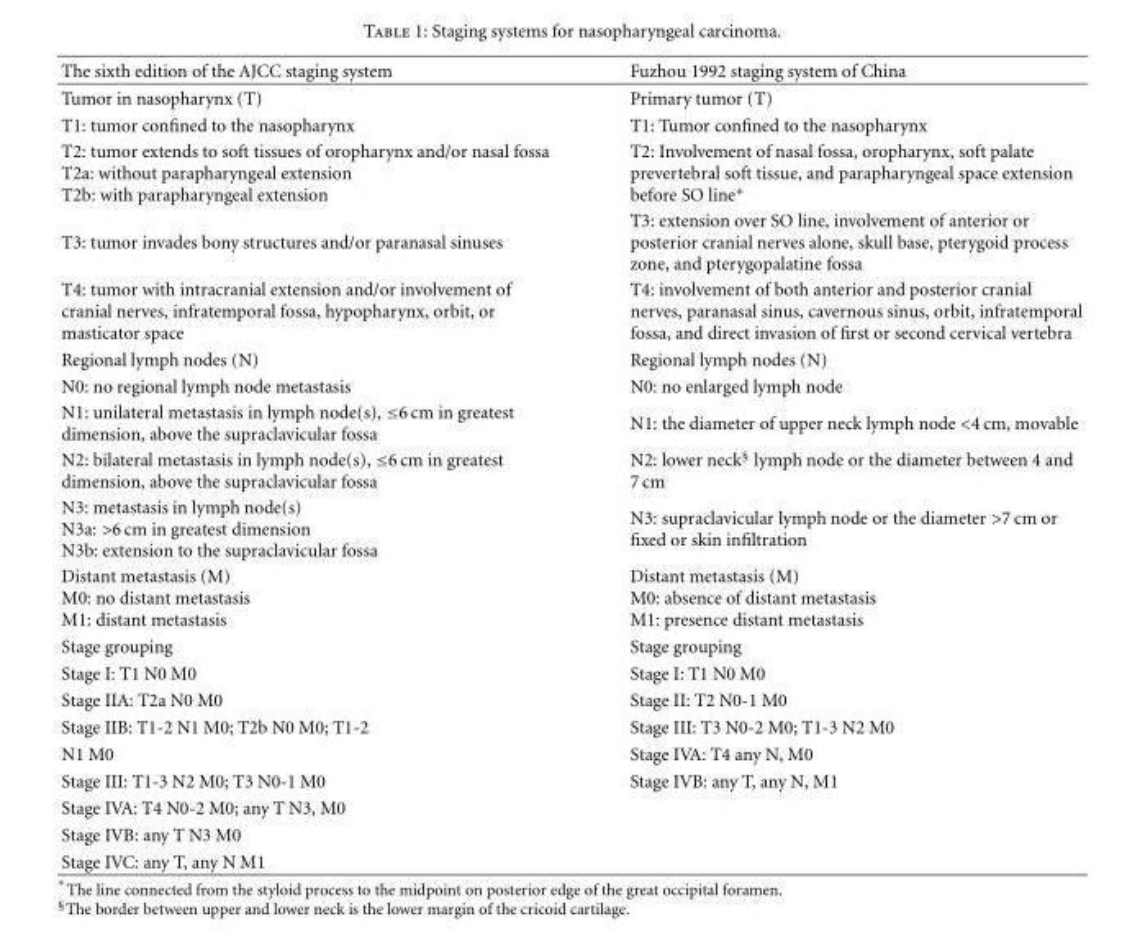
<table><thead><tr><td>The sixth edition of the AJCC staging system</td><td>Fuzhou 1992 staging system of China</td></tr></thead><tbody><tr><td>Tumor in nasopharynx (T)</td><td>Primary tumor (T)</td></tr><tr><td>T1: tumor confined to the nasopharynx</td><td>T1: Tumor confined to the nasopharynx</td></tr><tr><td>T2: tumor extends to soft tissues of oropharynx and/or nasal fossa T2a: without parapharyngeal extension T2b: with parapharyngeal extension</td><td>T2: Involvement of nasal fossa, oropharynx, soft palate prevertebral soft tissue, and parapharyngeal space extension before SO line∗</td></tr><tr><td>T3: tumor invades bony structures and/or paranasal sinuses</td><td>T3: extension over SO line, involvement of anterior or posterior cranial nerves alone, skull base, pterygoid process zone, and pterygopalatine fossa</td></tr><tr><td>T4: tumor with intracranial extension and/or involvement of cranial nerves, infratemporal fossa, hypopharynx, orbit, or masticator space</td><td>T4: involvement of both anterior and posterior cranial nerves, paranasal sinus, cavernous sinus, orbit, infratemporal fossa, and direct invasion of first or second cervical vertebra</td></tr><tr><td>Regional lymph nodes (N)</td><td>Regional lymph nodes (N)</td></tr><tr><td>N0: no regional lymph node metastasis</td><td>N0: no enlarged lymph node</td></tr><tr><td>N1: unilateral metastasis in lymph node(s), ≤6 cm in greatest dimension, above the supraclavicular fossa</td><td>N1: the diameter of upper neck lymph node &lt;4 cm, movable</td></tr><tr><td>N2: bilateral metastasis in lymph node(s), ≤6 cm in greatest dimension, above the supraclavicular fossa</td><td>N2: lower neck<sup>§</sup> lymph node or the diameter between 4 and 7 cm</td></tr><tr><td>N3: metastasis in lymph node(s) N3a: &gt;6 cm in greatest dimension N3b: extension to the supraclavicular fossa</td><td>N3: supraclavicular lymph node or the diameter &gt;7 cm or fixed or skin infiltration</td></tr><tr><td>Distant metastasis (M) M0: no distant metastasis M1: distant metastasis</td><td>Distant metastasis (M) M0: absence of distant metastasis M1: presence distant metastasis</td></tr><tr><td>Stage grouping</td><td>Stage grouping</td></tr><tr><td>Stage I: T1 N0 M0</td><td>Stage I: T1 N0 M0</td></tr><tr><td>Stage IIA: T2a N0 M0</td><td>Stage II: T2 N0-1 M0</td></tr><tr><td>Stage IIB: T1-2 N1 M0; T2b N0 M0; T1-2</td><td>Stage III: T3 N0-2 M0; T1-3 N2 M0</td></tr><tr><td>N1 M0</td><td>Stage IVA: T4 any N, M0</td></tr><tr><td>Stage III: T1-3 N2 M0; T3 N0-1 M0</td><td>Stage IVB: any T, any N, M1</td></tr><tr><td colspan="2">Stage IVA: T4 N0-2 M0; any T N3, M0</td></tr><tr><td colspan="2">Stage IVB: any T N3 M0</td></tr><tr><td>Stage IVC: any T, any N M1</td><td></td></tr></tbody></table>